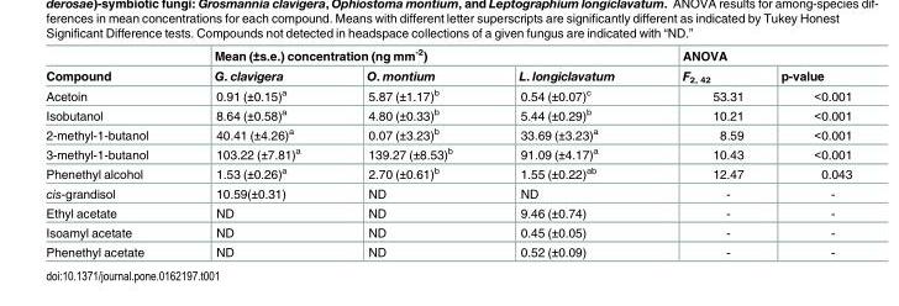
<table><thead><tr><td rowspan="2">Compound</td><td colspan="3">Mean (±s.e.) concentration (ng mm<sup>-2</sup>)</td><td colspan="2">ANOVA</td></tr><tr><td>G. clavigera</td><td>O. montium</td><td>L. longiclavatum</td><td>F<sub>2, 42</sub></td><td>p-value</td></tr></thead><tbody><tr><td>Acetoin</td><td>0.91 (±0.15)<sup>a</sup></td><td>5.87 (±1.17)<sup>b</sup></td><td>0.54 (±0.07)<sup>c</sup></td><td>53.31</td><td>&lt;0.001</td></tr><tr><td>Isobutanol</td><td>8.64 (±0.58)<sup>a</sup></td><td>4.80 (±0.33)<sup>b</sup></td><td>5.44 (±0.29)<sup>b</sup></td><td>10.21</td><td>&lt;0.001</td></tr><tr><td>2-methyl-1-butanol</td><td>40.41 (±4.26)<sup>a</sup></td><td>0.07 (±3.23)<sup>b</sup></td><td>33.69 (±3.23)<sup>a</sup></td><td>8.59</td><td>&lt;0.001</td></tr><tr><td>3-methyl-1-butanol</td><td>103.22 (±7.81)<sup>a</sup></td><td>139.27 (±8.53)<sup>b</sup></td><td>91.09 (±4.17)<sup>a</sup></td><td>10.43</td><td>&lt;0.001</td></tr><tr><td>Phenethyl alcohol</td><td>1.53 (±0.26)<sup>a</sup></td><td>2.70 (±0.61)<sup>b</sup></td><td>1.55 (±0.22)<sup>ab</sup></td><td>12.47</td><td>0.043</td></tr><tr><td>cis-grandisol</td><td>10.59(±0.31)</td><td>ND</td><td>ND</td><td>-</td><td>-</td></tr><tr><td>Ethyl acetate</td><td>ND</td><td>ND</td><td>9.46 (±0.74)</td><td>-</td><td>-</td></tr><tr><td>Isoamyl acetate</td><td>ND</td><td>ND</td><td>0.45 (±0.05)</td><td>-</td><td>-</td></tr><tr><td>Phenethyl acetate</td><td>ND</td><td>ND</td><td>0.52 (±0.09)</td><td>-</td><td>-</td></tr></tbody></table>